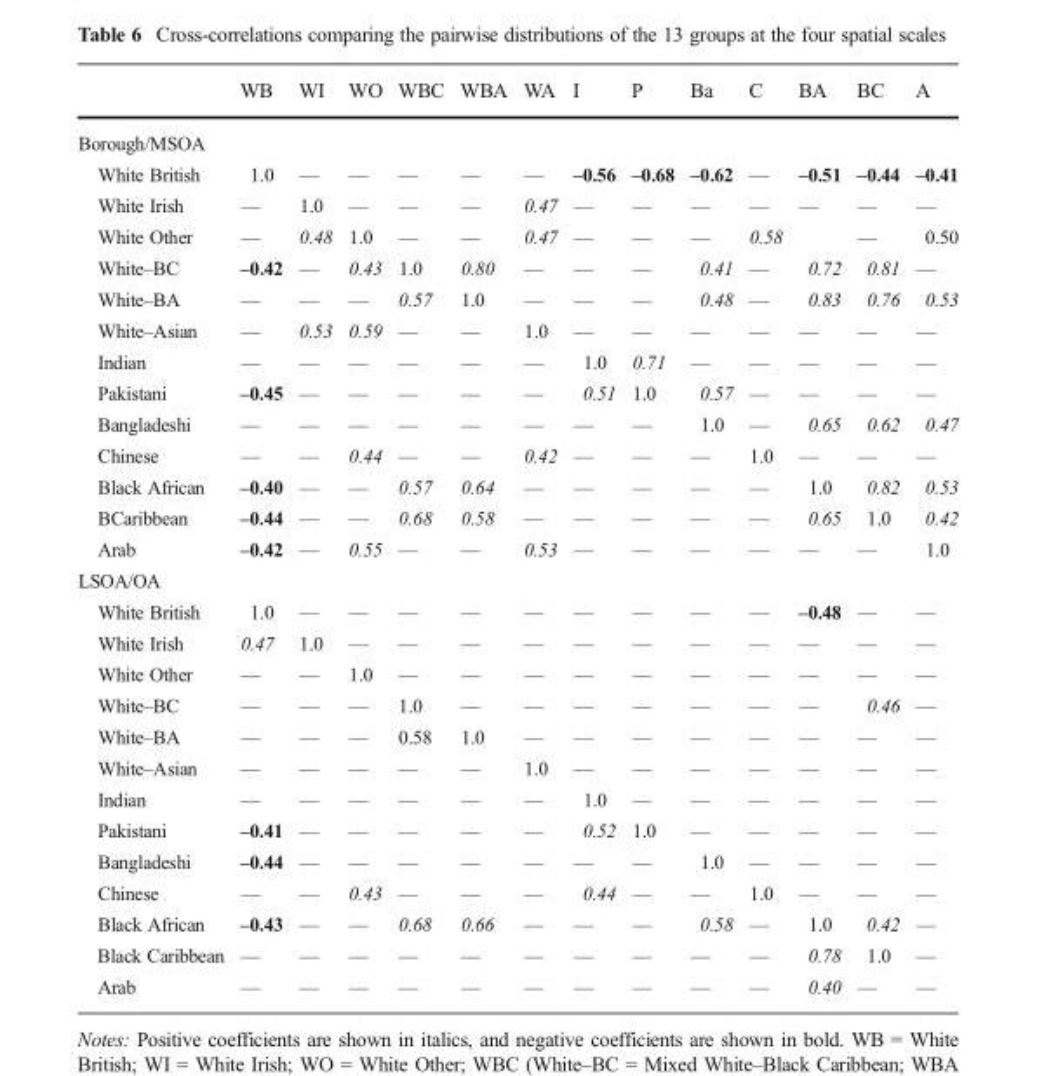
<table><thead><tr><td></td><td>WB</td><td>WI</td><td>WO</td><td>WBC</td><td>WBA</td><td>WA</td><td>I</td><td>P</td><td>Ba</td><td>C</td><td>BA</td><td>BC</td><td>A</td></tr></thead><tbody><tr><td colspan="14">Borough/MSOA</td></tr><tr><td>White British</td><td>1.0</td><td>—</td><td>––</td><td>––</td><td>––</td><td>––</td><td>–0.56</td><td>–0.68</td><td>–0.62</td><td>––</td><td>–0.51</td><td>–0.44</td><td>–0.41</td></tr><tr><td>White Irish</td><td>––</td><td>1.0</td><td>––</td><td>––</td><td>––</td><td>0.47</td><td>––</td><td>––</td><td>––</td><td>––</td><td>––</td><td>––</td><td>––</td></tr><tr><td>White Other</td><td>––</td><td>0.48</td><td>1.0</td><td>––</td><td>––</td><td>0.47</td><td>––</td><td>––</td><td>––</td><td>0.58</td><td></td><td>––</td><td>0.50</td></tr><tr><td>White–BC</td><td>–0.42</td><td>––</td><td>0.43</td><td>1.0</td><td>0.80</td><td>––</td><td>––</td><td>––</td><td>0.41</td><td>––</td><td>0.72</td><td>0.81</td><td>––</td></tr><tr><td>White–BA</td><td>––</td><td>––</td><td>––</td><td>0.57</td><td>1.0</td><td>––</td><td>––</td><td>––</td><td>0.48</td><td>––</td><td>0.83</td><td>0.76</td><td>0.53</td></tr><tr><td>White–Asian</td><td>––</td><td>0.53</td><td>0.59</td><td>––</td><td>––</td><td>1.0</td><td>––</td><td>––</td><td>––</td><td>––</td><td>––</td><td>––</td><td>––</td></tr><tr><td>Indian</td><td>––</td><td>––</td><td>––</td><td>––</td><td>––</td><td>––</td><td>1.0</td><td>0.71</td><td>––</td><td>––</td><td>––</td><td>––</td><td>––</td></tr><tr><td>Pakistani</td><td>–0.45</td><td>––</td><td>––</td><td>––</td><td>––</td><td>––</td><td>0.51</td><td>1.0</td><td>0.57</td><td>––</td><td>––</td><td>––</td><td>––</td></tr><tr><td>Bangladeshi</td><td>––</td><td>––</td><td>––</td><td>––</td><td>––</td><td>––</td><td>––</td><td>––</td><td>1.0</td><td>––</td><td>0.65</td><td>0.62</td><td>0.47</td></tr><tr><td>Chinese</td><td>––</td><td>––</td><td>0.44</td><td>––</td><td>––</td><td>0.42</td><td>––</td><td>––</td><td>––</td><td>1.0</td><td>––</td><td>––</td><td>––</td></tr><tr><td>Black African</td><td>–0.40</td><td>––</td><td>––</td><td>0.57</td><td>0.64</td><td>––</td><td>––</td><td>––</td><td>––</td><td>––</td><td>1.0</td><td>0.82</td><td>0.53</td></tr><tr><td>BCaribbean</td><td>–0.44</td><td>––</td><td>––</td><td>0.68</td><td>0.58</td><td>––</td><td>––</td><td>––</td><td>––</td><td>––</td><td>0.65</td><td>1.0</td><td>0.42</td></tr><tr><td>Arab</td><td>–0.42</td><td>––</td><td>0.55</td><td>––</td><td>––</td><td>0.53</td><td>––</td><td>––</td><td>––</td><td>––</td><td>––</td><td>––</td><td>1.0</td></tr><tr><td colspan="14">LSOA/OA</td></tr><tr><td>White British</td><td>1.0</td><td>––</td><td>––</td><td>––</td><td>––</td><td>––</td><td>––</td><td>––</td><td>––</td><td>––</td><td>–0.48</td><td>––</td><td>––</td></tr><tr><td>White Irish</td><td>0.47</td><td>1.0</td><td>––</td><td>––</td><td>––</td><td>––</td><td>––</td><td>––</td><td>––</td><td>––</td><td>––</td><td>––</td><td>––</td></tr><tr><td>White Other</td><td>––</td><td>––</td><td>1.0</td><td>––</td><td>––</td><td>––</td><td>––</td><td>––</td><td>––</td><td>––</td><td>––</td><td>––</td><td>––</td></tr><tr><td>White–BC</td><td>––</td><td>––</td><td>––</td><td>1.0</td><td>––</td><td>––</td><td>––</td><td>––</td><td>––</td><td>––</td><td>––</td><td>0.46</td><td>––</td></tr><tr><td>White–BA</td><td>––</td><td>––</td><td>––</td><td>0.58</td><td>1.0</td><td>––</td><td>––</td><td>––</td><td>––</td><td>––</td><td>––</td><td>––</td><td>––</td></tr><tr><td>White–Asian</td><td>––</td><td>––</td><td>––</td><td>––</td><td>––</td><td>1.0</td><td>––</td><td>––</td><td>––</td><td>––</td><td>––</td><td>––</td><td>––</td></tr><tr><td>Indian</td><td>––</td><td>––</td><td>––</td><td>––</td><td>––</td><td>––</td><td>1.0</td><td>––</td><td>––</td><td>––</td><td>––</td><td>––</td><td>––</td></tr><tr><td>Pakistani</td><td>–0.41</td><td>––</td><td>––</td><td>––</td><td>––</td><td>––</td><td>0.52</td><td>1.0</td><td>––</td><td>––</td><td>––</td><td>––</td><td>––</td></tr><tr><td>Bangladeshi</td><td>–0.44</td><td>––</td><td>––</td><td>––</td><td>––</td><td>––</td><td>––</td><td>––</td><td>1.0</td><td>––</td><td>––</td><td>––</td><td>––</td></tr><tr><td>Chinese</td><td>––</td><td>––</td><td>0.43</td><td>––</td><td>––</td><td>––</td><td>0.44</td><td>––</td><td>––</td><td>1.0</td><td>––</td><td>––</td><td>––</td></tr><tr><td>Black African</td><td>–0.43</td><td>––</td><td>––</td><td>0.68</td><td>0.66</td><td>––</td><td>––</td><td>––</td><td>0.58</td><td>––</td><td>1.0</td><td>0.42</td><td>––</td></tr><tr><td>Black Caribbean</td><td>––</td><td>––</td><td>––</td><td>––</td><td>––</td><td>––</td><td>––</td><td>––</td><td>––</td><td>––</td><td>0.78</td><td>1.0</td><td>––</td></tr><tr><td>Arab</td><td>––</td><td>––</td><td>––</td><td>––</td><td>––</td><td>––</td><td>––</td><td>––</td><td>––</td><td>––</td><td>0.40</td><td>––</td><td>––</td></tr></tbody></table>